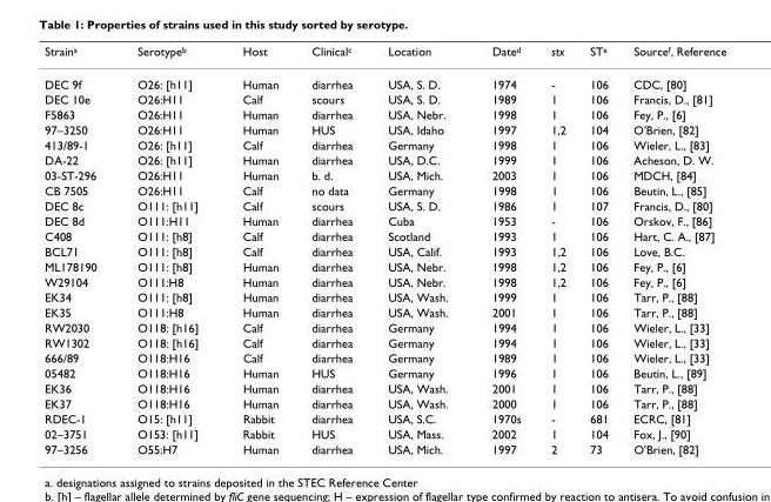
<table><thead><tr><td>Strain<sup>a</sup></td><td>Serotype<sup>b</sup></td><td>Host</td><td>Clinical<sup>c</sup></td><td>Location</td><td>Date<sup>d</sup></td><td>stx</td><td>ST<sup>e</sup></td><td>Source<sup>f</sup>, Reference</td></tr></thead><tbody><tr><td>DEC 9f</td><td>O26: [h11]</td><td>Human</td><td>diarrhea</td><td>USA, S. D.</td><td>1974</td><td>-</td><td>106</td><td>CDC, [80]</td></tr><tr><td>DEC 10e</td><td>O26:H11</td><td>Calf</td><td>scours</td><td>USA, S. D.</td><td>1989</td><td>1</td><td>106</td><td>Francis, D., [81]</td></tr><tr><td>F5863</td><td>O26:H11</td><td>Human</td><td>diarrhea</td><td>USA, Nebr.</td><td>1998</td><td>1</td><td>106</td><td>Fey, P., [6]</td></tr><tr><td>97–3250</td><td>O26:H11</td><td>Human</td><td>HUS</td><td>USA, Idaho</td><td>1997</td><td>1,2</td><td>104</td><td>O&#x27;Brien, [82]</td></tr><tr><td>413/89-1</td><td>O26: [h11]</td><td>Calf</td><td>diarrhea</td><td>Germany</td><td>1998</td><td>1</td><td>106</td><td>Wieler, L., [83]</td></tr><tr><td>DA-22</td><td>O26: [h11]</td><td>Human</td><td>diarrhea</td><td>USA, D.C.</td><td>1999</td><td>1</td><td>106</td><td>Acheson, D. W.</td></tr><tr><td>03-ST-296</td><td>O26:H11</td><td>Human</td><td>b. d.</td><td>USA, Mich.</td><td>2003</td><td>1</td><td>106</td><td>MDCH, [84]</td></tr><tr><td>CB 7505</td><td>O26:H11</td><td>Calf</td><td>no data</td><td>Germany</td><td>1998</td><td>1</td><td>106</td><td>Beutin, L., [85]</td></tr><tr><td>DEC 8c</td><td>O111: [h11]</td><td>Calf</td><td>scours</td><td>USA, S. D.</td><td>1986</td><td>1</td><td>107</td><td>Francis, D., [80]</td></tr><tr><td>DEC 8d</td><td>O111:H11</td><td>Human</td><td>diarrhea</td><td>Cuba</td><td>1953</td><td>-</td><td>106</td><td>Orskov, F., [86]</td></tr><tr><td>C408</td><td>O111: [h8]</td><td>Calf</td><td>diarrhea</td><td>Scotland</td><td>1993</td><td>1</td><td>106</td><td>Hart, C. A., [87]</td></tr><tr><td>BCL71</td><td>O111: [h8]</td><td>Calf</td><td>diarrhea</td><td>USA, Calif.</td><td>1993</td><td>1,2</td><td>106</td><td>Love, B.C.</td></tr><tr><td>ML178190</td><td>O111: [h8]</td><td>Human</td><td>diarrhea</td><td>USA, Nebr.</td><td>1998</td><td>1,2</td><td>106</td><td>Fey, P., [6]</td></tr><tr><td>W29104</td><td>O111:H8</td><td>Human</td><td>diarrhea</td><td>USA, Nebr.</td><td>1998</td><td>1,2</td><td>106</td><td>Fey, P., [6]</td></tr><tr><td>EK34</td><td>O111: [h8]</td><td>Human</td><td>diarrhea</td><td>USA, Wash.</td><td>1999</td><td>1</td><td>106</td><td>Tarr, P., [88]</td></tr><tr><td>EK35</td><td>O111:H8</td><td>Human</td><td>diarrhea</td><td>USA, Wash.</td><td>2001</td><td>1</td><td>106</td><td>Tarr, P., [88]</td></tr><tr><td>RW2030</td><td>O118: [h16]</td><td>Calf</td><td>diarrhea</td><td>Germany</td><td>1994</td><td>1</td><td>106</td><td>Wieler, L., [33]</td></tr><tr><td>RW1302</td><td>O118: [h16]</td><td>Calf</td><td>diarrhea</td><td>Germany</td><td>1994</td><td>1</td><td>106</td><td>Wieler, L., [33]</td></tr><tr><td>666/89</td><td>O118:H16</td><td>Calf</td><td>diarrhea</td><td>Germany</td><td>1989</td><td>1</td><td>106</td><td>Wieler, L., [33]</td></tr><tr><td>05482</td><td>O118:H16</td><td>Human</td><td>HUS</td><td>Germany</td><td>1996</td><td>1</td><td>106</td><td>Beutin, L., [89]</td></tr><tr><td>EK36</td><td>O118:H16</td><td>Human</td><td>diarrhea</td><td>USA, Wash.</td><td>2001</td><td>1</td><td>106</td><td>Tarr, P., [88]</td></tr><tr><td>EK37</td><td>O118:H16</td><td>Human</td><td>diarrhea</td><td>USA, Wash.</td><td>2000</td><td>1</td><td>106</td><td>Tarr, P., [88]</td></tr><tr><td>RDEC-1</td><td>O15: [h11]</td><td>Rabbit</td><td>diarrhea</td><td>USA, S.C.</td><td>1970s</td><td>-</td><td>681</td><td>ECRC, [81]</td></tr><tr><td>02–3751</td><td>O153: [h11]</td><td>Rabbit</td><td>HUS</td><td>USA, Mass.</td><td>2002</td><td>1</td><td>104</td><td>Fox, J., [90]</td></tr><tr><td>97–3256</td><td>O55:H7</td><td>Human</td><td>diarrhea</td><td>USA, Mich.</td><td>1997</td><td>2</td><td>73</td><td>O&#x27;Brien, [82]</td></tr></tbody></table>